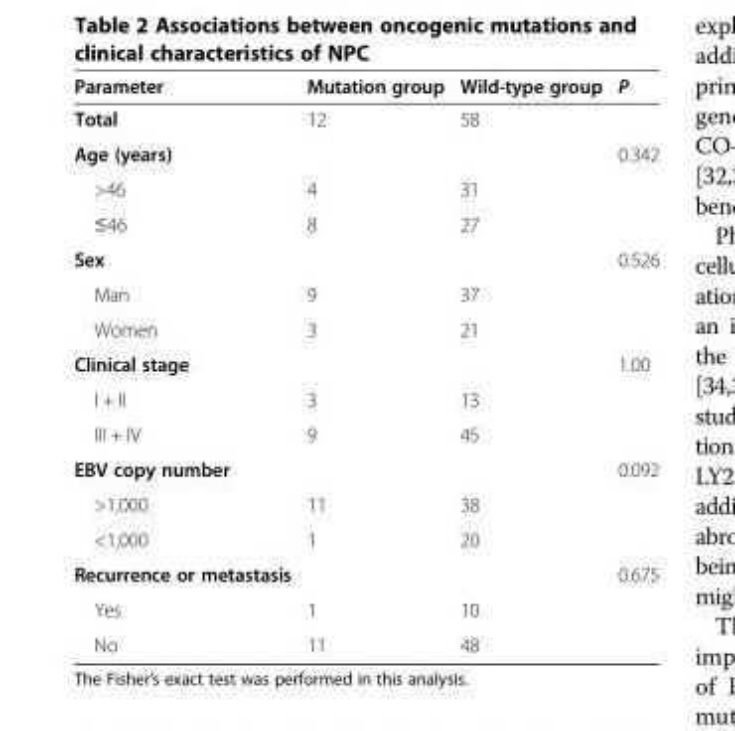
<table><thead><tr><td>Parameter</td><td>Mutation group</td><td>Wild-type group</td><td>P</td></tr></thead><tbody><tr><td>Total</td><td>12</td><td>58</td><td></td></tr><tr><td>Age (years)</td><td></td><td></td><td>0.342</td></tr><tr><td>&gt;46</td><td>4</td><td>31</td><td></td></tr><tr><td>≤46</td><td>8</td><td>27</td><td></td></tr><tr><td>Sex</td><td></td><td></td><td>0.526</td></tr><tr><td>Man</td><td>9</td><td>37</td><td></td></tr><tr><td>Women</td><td>3</td><td>21</td><td></td></tr><tr><td>Clinical stage</td><td></td><td></td><td>1.00</td></tr><tr><td>I + II</td><td>3</td><td>13</td><td></td></tr><tr><td>III + IV</td><td>9</td><td>45</td><td></td></tr><tr><td>EBV copy number</td><td></td><td></td><td>0.092</td></tr><tr><td>&gt;1,000</td><td>11</td><td>38</td><td></td></tr><tr><td>&lt;1,000</td><td>1</td><td>20</td><td></td></tr><tr><td>Recurrence or metastasis</td><td></td><td></td><td>0.675</td></tr><tr><td>Yes</td><td>1</td><td>10</td><td></td></tr><tr><td>No</td><td>11</td><td>48</td><td></td></tr></tbody></table>